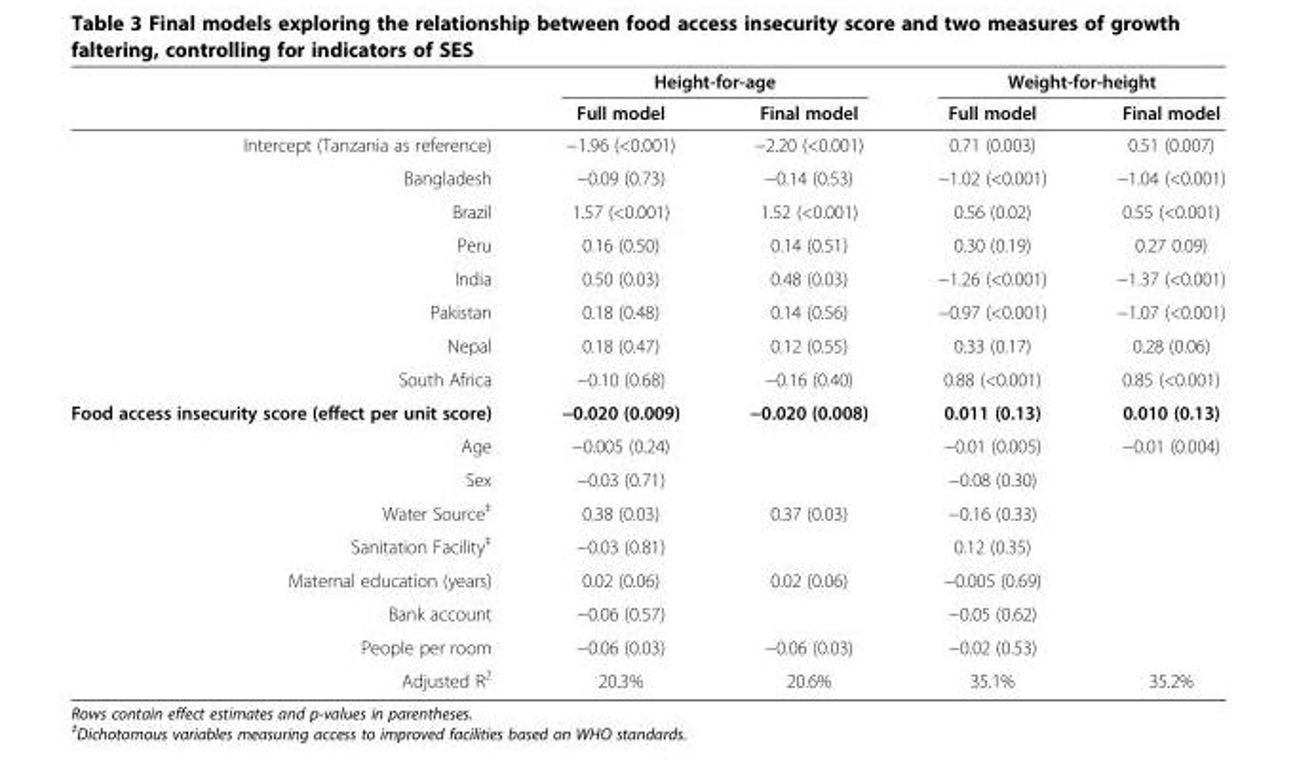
<table><thead><tr><td rowspan="2"></td><td colspan="2">Height-for-age</td><td colspan="2">Weight-for-height</td></tr><tr><td>Full model</td><td>Final model</td><td>Full model</td><td>Final model</td></tr></thead><tbody><tr><td>Intercept (Tanzania as reference)</td><td>−1.96 (&lt;0.001)</td><td>−2.20 (&lt;0.001)</td><td>0.71 (0.003)</td><td>0.51 (0.007)</td></tr><tr><td>Bangladesh</td><td>−0.09 (0.73)</td><td>−0.14 (0.53)</td><td>−1.02 (&lt;0.001)</td><td>−1.04 (&lt;0.001)</td></tr><tr><td>Brazil</td><td>1.57 (&lt;0.001)</td><td>1.52 (&lt;0.001)</td><td>0.56 (0.02)</td><td>0.55 (&lt;0.001)</td></tr><tr><td>Peru</td><td>0.16 (0.50)</td><td>0.14 (0.51)</td><td>0.30 (0.19)</td><td>0.27 0.09)</td></tr><tr><td>India</td><td>0.50 (0.03)</td><td>0.48 (0.03)</td><td>−1.26 (&lt;0.001)</td><td>−1.37 (&lt;0.001)</td></tr><tr><td>Pakistan</td><td>0.18 (0.48)</td><td>0.14 (0.56)</td><td>−0.97 (&lt;0.001)</td><td>−1.07 (&lt;0.001)</td></tr><tr><td>Nepal</td><td>0.18 (0.47)</td><td>0.12 (0.55)</td><td>0.33 (0.17)</td><td>0.28 (0.06)</td></tr><tr><td>South Africa</td><td>−0.10 (0.68)</td><td>−0.16 (0.40)</td><td>0.88 (&lt;0.001)</td><td>0.85 (&lt;0.001)</td></tr><tr><td>Food access insecurity score (effect per unit score)</td><td>−0.020 (0.009)</td><td>−0.020 (0.008)</td><td>0.011 (0.13)</td><td>0.010 (0.13)</td></tr><tr><td>Age</td><td>−0.005 (0.24)</td><td></td><td>−0.01 (0.005)</td><td>−0.01 (0.004)</td></tr><tr><td>Sex</td><td>−0.03 (0.71)</td><td></td><td>−0.08 (0.30)</td><td></td></tr><tr><td>Water Source<sup>‡</sup></td><td>0.38 (0.03)</td><td>0.37 (0.03)</td><td>−0.16 (0.33)</td><td></td></tr><tr><td>Sanitation Facility<sup>‡</sup></td><td>−0.03 (0.81)</td><td></td><td>0.12 (0.35)</td><td></td></tr><tr><td>Maternal education (years)</td><td>0.02 (0.06)</td><td>0.02 (0.06)</td><td>−0.005 (0.69)</td><td></td></tr><tr><td>Bank account</td><td>−0.06 (0.57)</td><td></td><td>−0.05 (0.62)</td><td></td></tr><tr><td>People per room</td><td>−0.06 (0.03)</td><td>−0.06 (0.03)</td><td>−0.02 (0.53)</td><td></td></tr><tr><td>Adjusted R<sup>2</sup></td><td>20.3%</td><td>20.6%</td><td>35.1%</td><td>35.2%</td></tr></tbody></table>